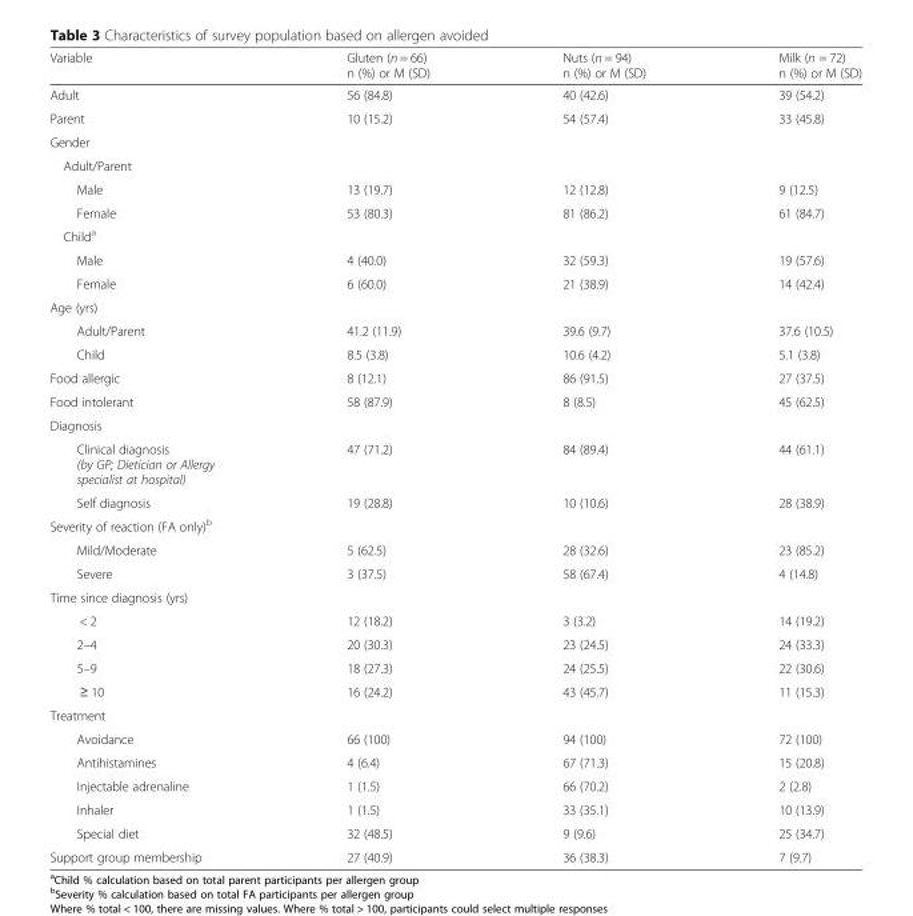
<table><thead><tr><td>Variable</td><td>Gluten (n = 66) n (%) or M (SD)</td><td>Nuts (n = 94) n (%) or M (SD)</td><td>Milk (n = 72) n (%) or M (SD)</td></tr></thead><tbody><tr><td>Adult</td><td>56 (84.8)</td><td>40 (42.6)</td><td>39 (54.2)</td></tr><tr><td>Parent</td><td>10 (15.2)</td><td>54 (57.4)</td><td>33 (45.8)</td></tr><tr><td colspan="4">Gender</td></tr><tr><td colspan="4">Adult/Parent</td></tr><tr><td>Male</td><td>13 (19.7)</td><td>12 (12.8)</td><td>9 (12.5)</td></tr><tr><td>Female</td><td>53 (80.3)</td><td>81 (86.2)</td><td>61 (84.7)</td></tr><tr><td colspan="4">Child<sup>a</sup></td></tr><tr><td>Male</td><td>4 (40.0)</td><td>32 (59.3)</td><td>19 (57.6)</td></tr><tr><td>Female</td><td>6 (60.0)</td><td>21 (38.9)</td><td>14 (42.4)</td></tr><tr><td colspan="4">Age (yrs)</td></tr><tr><td>Adult/Parent</td><td>41.2 (11.9)</td><td>39.6 (9.7)</td><td>37.6 (10.5)</td></tr><tr><td>Child</td><td>8.5 (3.8)</td><td>10.6 (4.2)</td><td>5.1 (3.8)</td></tr><tr><td>Food allergic</td><td>8 (12.1)</td><td>86 (91.5)</td><td>27 (37.5)</td></tr><tr><td>Food intolerant</td><td>58 (87.9)</td><td>8 (8.5)</td><td>45 (62.5)</td></tr><tr><td colspan="4">Diagnosis</td></tr><tr><td>Clinical diagnosis (by GP; Dietician or Allergy specialist at hospital)</td><td>47 (71.2)</td><td>84 (89.4)</td><td>44 (61.1)</td></tr><tr><td>Self diagnosis</td><td>19 (28.8)</td><td>10 (10.6)</td><td>28 (38.9)</td></tr><tr><td colspan="4">Severity of reaction (FA only)<sup>b</sup></td></tr><tr><td>Mild/Moderate</td><td>5 (62.5)</td><td>28 (32.6)</td><td>23 (85.2)</td></tr><tr><td>Severe</td><td>3 (37.5)</td><td>58 (67.4)</td><td>4 (14.8)</td></tr><tr><td colspan="4">Time since diagnosis (yrs)</td></tr><tr><td>&lt; 2</td><td>12 (18.2)</td><td>3 (3.2)</td><td>14 (19.2)</td></tr><tr><td>2–4</td><td>20 (30.3)</td><td>23 (24.5)</td><td>24 (33.3)</td></tr><tr><td>5–9</td><td>18 (27.3)</td><td>24 (25.5)</td><td>22 (30.6)</td></tr><tr><td>≥ 10</td><td>16 (24.2)</td><td>43 (45.7)</td><td>11 (15.3)</td></tr><tr><td colspan="4">Treatment</td></tr><tr><td>Avoidance</td><td>66 (100)</td><td>94 (100)</td><td>72 (100)</td></tr><tr><td>Antihistamines</td><td>4 (6.4)</td><td>67 (71.3)</td><td>15 (20.8)</td></tr><tr><td>Injectable adrenaline</td><td>1 (1.5)</td><td>66 (70.2)</td><td>2 (2.8)</td></tr><tr><td>Inhaler</td><td>1 (1.5)</td><td>33 (35.1)</td><td>10 (13.9)</td></tr><tr><td>Special diet</td><td>32 (48.5)</td><td>9 (9.6)</td><td>25 (34.7)</td></tr><tr><td>Support group membership</td><td>27 (40.9)</td><td>36 (38.3)</td><td>7 (9.7)</td></tr></tbody></table>